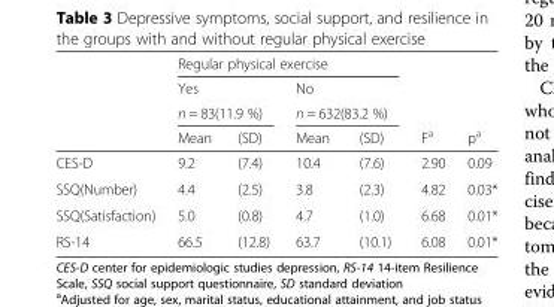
<table><thead><tr><td rowspan="4"></td><td colspan="4">Regular physical exercise</td><td rowspan="4">F<sup>a</sup></td><td rowspan="4">p<sup>a</sup></td></tr><tr><td>Yes</td><td></td><td>No</td><td></td></tr><tr><td colspan="2">n = 83(11.9 %)</td><td colspan="2">n = 632(83.2 %)</td></tr><tr><td>Mean</td><td>(SD)</td><td>Mean</td><td>(SD)</td></tr></thead><tbody><tr><td>CES-D</td><td>9.2</td><td>(7.4)</td><td>10.4</td><td>(7.6)</td><td>2.90</td><td>0.09</td></tr><tr><td>SSQ(Number)</td><td>4.4</td><td>(2.5)</td><td>3.8</td><td>(2.3)</td><td>4.82</td><td>0.03*</td></tr><tr><td>SSQ(Satisfaction)</td><td>5.0</td><td>(0.8)</td><td>4.7</td><td>(1.0)</td><td>6.68</td><td>0.01*</td></tr><tr><td>RS-14</td><td>66.5</td><td>(12.8)</td><td>63.7</td><td>(10.1)</td><td>6.08</td><td>0.01*</td></tr></tbody></table>